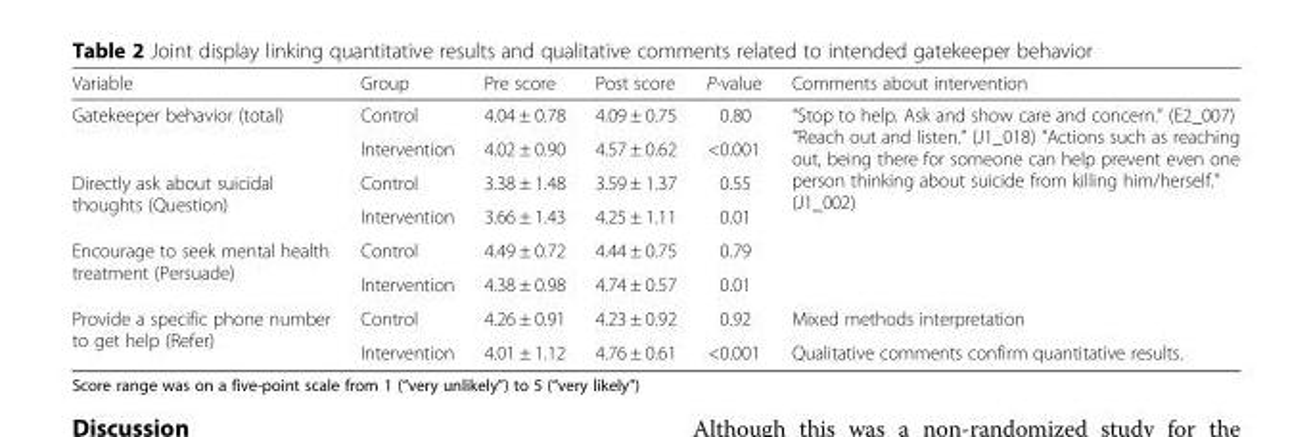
<table><thead><tr><td>Variable</td><td>Group</td><td>Pre score</td><td>Post score</td><td>P-value</td><td>Comments about intervention</td></tr></thead><tbody><tr><td rowspan="2">Gatekeeper behavior (total)</td><td>Control</td><td>4.04 ± 0.78</td><td>4.09 ± 0.75</td><td>0.80</td><td rowspan="6">“Stop to help. Ask and show care and concern.” (E2_007) “Reach out and listen.” (J1_018) &quot;Actions such as reaching out, being there for someone can help prevent even one person thinking about suicide from killing him/herself.&quot; (J1_002)</td></tr><tr><td>Intervention</td><td>4.02 ± 0.90</td><td>4.57 ± 0.62</td><td>&lt;0.001</td></tr><tr><td rowspan="2">Directly ask about suicidal thoughts (Question)</td><td>Control</td><td>3.38 ± 1.48</td><td>3.59 ± 1.37</td><td>0.55</td></tr><tr><td>Intervention</td><td>3.66 ± 1.43</td><td>4.25 ± 1.11</td><td>0.01</td></tr><tr><td rowspan="2">Encourage to seek mental health treatment (Persuade)</td><td>Control</td><td>4.49 ± 0.72</td><td>4.44 ± 0.75</td><td>0.79</td></tr><tr><td>Intervention</td><td>4.38 ± 0.98</td><td>4.74 ± 0.57</td><td>0.01</td></tr><tr><td rowspan="2">Provide a specific phone number to get help (Refer)</td><td>Control</td><td>4.26 ± 0.91</td><td>4.23 ± 0.92</td><td>0.92</td><td>Mixed methods interpretation</td></tr><tr><td>Intervention</td><td>4.01 ± 1.12</td><td>4.76 ± 0.61</td><td>&lt;0.001</td><td>Qualitative comments confirm quantitative results.</td></tr></tbody></table>